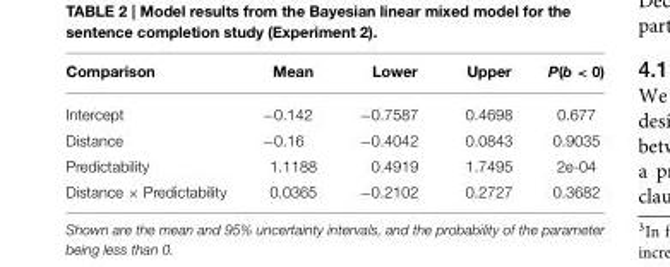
<table><thead><tr><td>Comparison</td><td>Mean</td><td>Lower</td><td>Upper</td><td>P(b &lt; 0)</td></tr></thead><tbody><tr><td>Intercept</td><td>−0.142</td><td>−0.7587</td><td>0.4698</td><td>0.677</td></tr><tr><td>Distance</td><td>−0.16</td><td>−0.4042</td><td>0.0843</td><td>0.9035</td></tr><tr><td>Predictability</td><td>1.1188</td><td>0.4919</td><td>1.7495</td><td>2e-04</td></tr><tr><td>Distance × Predictability</td><td>0.0365</td><td>−0.2102</td><td>0.2727</td><td>0.3682</td></tr></tbody></table>